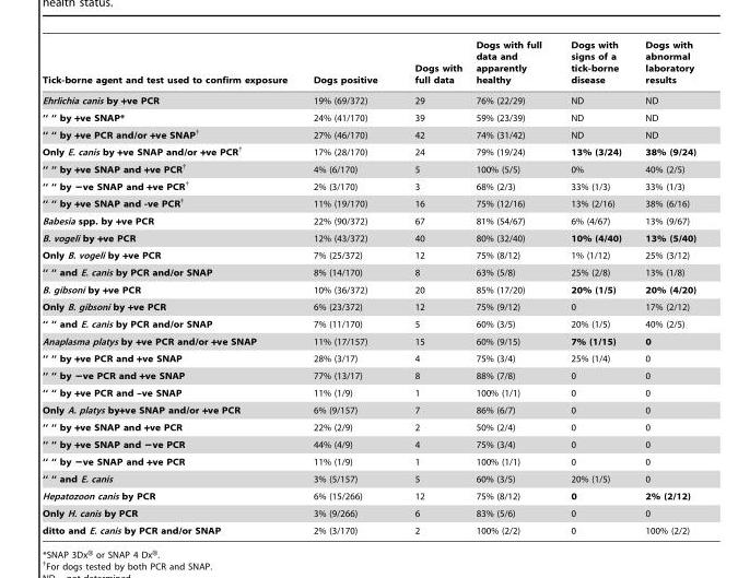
<table><thead><tr><td>Tick-borne agent and test used to confirm exposure</td><td>Dogs positive</td><td>Dogs with full data</td><td>Dogs with full data and apparently healthy</td><td>Dogs with signs of a tick-borne disease</td><td>Dogs with abnormal laboratory results</td></tr></thead><tbody><tr><td>Ehrlichia canis by +ve PCR</td><td>19% (69/372)</td><td>29</td><td>76% (22/29)</td><td>ND</td><td>ND</td></tr><tr><td>‘‘ ‘‘ by +ve SNAP*</td><td>24% (41/170)</td><td>39</td><td>59% (23/39)</td><td>ND</td><td>ND</td></tr><tr><td>‘‘ ‘‘ by +ve PCR and/or +ve SNAP{</td><td>27% (46/170)</td><td>42</td><td>74% (31/42)</td><td>ND</td><td>ND</td></tr><tr><td>Only E. canis by +ve SNAP and/or +ve PCR†</td><td>17% (28/170)</td><td>24</td><td>79% (19/24)</td><td>13% (3/24)</td><td>38% (9/24)</td></tr><tr><td>‘‘ ‘‘ by +ve SNAP and +ve PCR{</td><td>4% (6/170)</td><td>5</td><td>100% (5/5)</td><td>0%</td><td>40% (2/5)</td></tr><tr><td>‘‘ ‘‘ by 2ve SNAP and +ve PCR{</td><td>2% (3/170)</td><td>3</td><td>68% (2/3)</td><td>33% (1/3)</td><td>33% (1/3)</td></tr><tr><td>‘‘ ‘‘ by +ve SNAP and -ve PCR{</td><td>11% (19/170)</td><td>16</td><td>75% (12/16)</td><td>13% (2/16)</td><td>38% (6/16)</td></tr><tr><td>Babesia spp. by +ve PCR</td><td>22% (90/372)</td><td>67</td><td>81% (54/67)</td><td>6% (4/67)</td><td>13% (9/67)</td></tr><tr><td>B. vogeli by +ve PCR</td><td>12% (43/372)</td><td>40</td><td>80% (32/40)</td><td>10% (4/40)</td><td>13% (5/40)</td></tr><tr><td>Only B. vogeli by +ve PCR</td><td>7% (25/372)</td><td>12</td><td>75% (8/12)</td><td>1% (1/12)</td><td>25% (3/12)</td></tr><tr><td>‘‘ ‘‘ and E. canis by PCR and/or SNAP</td><td>8% (14/170)</td><td>8</td><td>63% (5/8)</td><td>25% (2/8)</td><td>13% (1/8)</td></tr><tr><td>B. gibsoni by +ve PCR</td><td>10% (36/372)</td><td>20</td><td>85% (17/20)</td><td>20% (1/5)</td><td>20% (4/20)</td></tr><tr><td>Only B. gibsoni by +ve PCR</td><td>6% (23/372)</td><td>12</td><td>75% (9/12)</td><td>0</td><td>17% (2/12)</td></tr><tr><td>‘‘ ‘‘ and E. canis by PCR and/or SNAP</td><td>7% (11/170)</td><td>5</td><td>60% (3/5)</td><td>20% (1/5)</td><td>40% (2/5)</td></tr><tr><td>Anaplasma platys by +ve PCR and/or +ve SNAP</td><td>11% (17/157)</td><td>15</td><td>60% (9/15)</td><td>7% (1/15)</td><td>0</td></tr><tr><td>‘‘ ‘‘ by +ve PCR and +ve SNAP</td><td>28% (3/17)</td><td>4</td><td>75% (3/4)</td><td>25% (1/4)</td><td>0</td></tr><tr><td>‘‘ ‘‘ by 2ve PCR and +ve SNAP</td><td>77% (13/17)</td><td>8</td><td>88% (7/8)</td><td>0</td><td>0</td></tr><tr><td>‘‘ ‘‘ by +ve PCR and –ve SNAP</td><td>11% (1/9)</td><td>1</td><td>100% (1/1)</td><td>0</td><td>0</td></tr><tr><td>Only A. platys by+ve SNAP and/or +ve PCR</td><td>6% (9/157)</td><td>7</td><td>86% (6/7)</td><td>0</td><td>0</td></tr><tr><td>‘‘ ‘‘ by +ve SNAP and +ve PCR</td><td>22% (2/9)</td><td>2</td><td>50% (2/4)</td><td>0</td><td>0</td></tr><tr><td>‘‘ ‘‘ by +ve SNAP and 2ve PCR</td><td>44% (4/9)</td><td>4</td><td>75% (3/4)</td><td>0</td><td>0</td></tr><tr><td>‘‘ ‘‘ by 2ve SNAP and +ve PCR</td><td>11% (1/9)</td><td>1</td><td>100% (1/1)</td><td>0</td><td>0</td></tr><tr><td>‘‘ ‘‘ and E. canis</td><td>3% (5/157)</td><td>5</td><td>60% (3/5)</td><td>20% (1/5)</td><td>0</td></tr><tr><td>Hepatozoon canis by PCR</td><td>6% (15/266)</td><td>12</td><td>75% (8/12)</td><td>0</td><td>2% (2/12)</td></tr><tr><td>Only H. canis by PCR</td><td>3% (9/266)</td><td>6</td><td>83% (5/6)</td><td>0</td><td>0</td></tr><tr><td>ditto and E. canis by PCR and/or SNAP</td><td>2% (3/170)</td><td>2</td><td>100% (2/2)</td><td>0</td><td>100% (2/2)</td></tr></tbody></table>